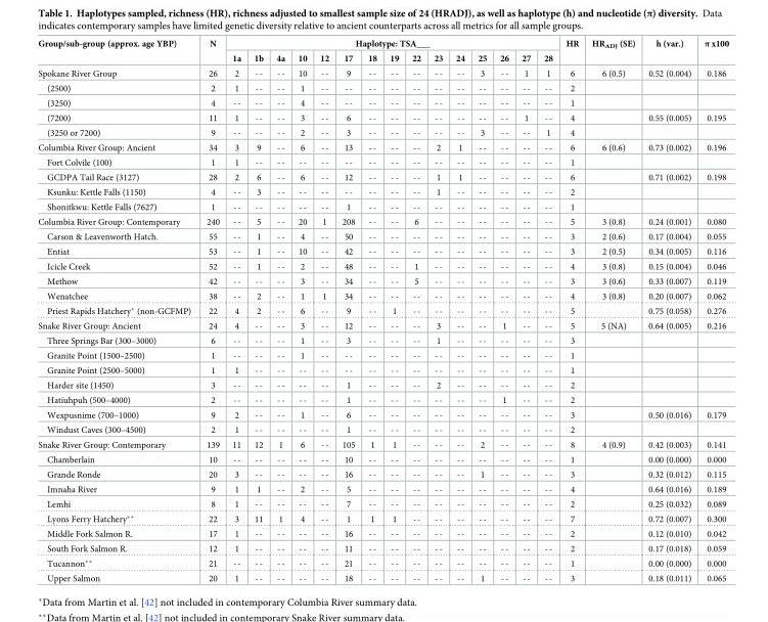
<table><thead><tr><td rowspan="2">Group/sub-group (approx. age YBP)</td><td rowspan="2">N</td><td colspan="15">Haplotype: TSA___</td><td rowspan="2">HR</td><td rowspan="2">HR<sub>ADJ</sub> (SE)</td><td rowspan="2">h (var.)</td><td rowspan="2">π x100</td></tr><tr><td>1a</td><td>1b</td><td>4a</td><td>10</td><td>12</td><td>17</td><td>18</td><td>19</td><td>22</td><td>23</td><td>24</td><td>25</td><td>26</td><td>27</td><td>28</td></tr></thead><tbody><tr><td>Spokane River Group</td><td>26</td><td>2</td><td>--</td><td>--</td><td>10</td><td>--</td><td>9</td><td>--</td><td>--</td><td>--</td><td>--</td><td>--</td><td>3</td><td>--</td><td>1</td><td>1</td><td>6</td><td>6 (0.5)</td><td>0.52 (0.004)</td><td>0.186</td></tr><tr><td>(2500)</td><td>2</td><td>1</td><td>--</td><td>--</td><td>1</td><td>--</td><td>--</td><td>--</td><td>--</td><td>--</td><td>--</td><td>--</td><td>--</td><td>--</td><td>--</td><td>--</td><td>2</td><td></td><td></td><td></td></tr><tr><td>(3250)</td><td>4</td><td>--</td><td>--</td><td>--</td><td>4</td><td>--</td><td>--</td><td>--</td><td>--</td><td>--</td><td>--</td><td>--</td><td>--</td><td>--</td><td>--</td><td>--</td><td>1</td><td></td><td></td><td></td></tr><tr><td>(7200)</td><td>11</td><td>1</td><td>--</td><td>--</td><td>3</td><td>--</td><td>6</td><td>--</td><td>--</td><td>--</td><td>--</td><td>--</td><td>--</td><td>--</td><td>1</td><td>--</td><td>4</td><td></td><td>0.55 (0.005)</td><td>0.195</td></tr><tr><td>(3250 or 7200)</td><td>9</td><td>--</td><td>--</td><td>--</td><td>2</td><td>--</td><td>3</td><td>--</td><td>--</td><td>--</td><td>--</td><td>--</td><td>3</td><td>--</td><td>--</td><td>1</td><td>4</td><td></td><td></td><td></td></tr><tr><td>Columbia River Group: Ancient</td><td>34</td><td>3</td><td>9</td><td>--</td><td>6</td><td>--</td><td>13</td><td>--</td><td>--</td><td>--</td><td>2</td><td>1</td><td>--</td><td>--</td><td>--</td><td>--</td><td>6</td><td>6 (0.6)</td><td>0.73 (0.002)</td><td>0.196</td></tr><tr><td>Fort Colvile (100)</td><td>1</td><td>1</td><td>--</td><td>--</td><td>--</td><td>--</td><td>--</td><td>--</td><td>--</td><td>--</td><td>--</td><td>--</td><td>--</td><td>--</td><td>--</td><td>--</td><td>1</td><td></td><td></td><td></td></tr><tr><td>GCDPA Tail Race (3127)</td><td>28</td><td>2</td><td>6</td><td>--</td><td>6</td><td>--</td><td>12</td><td>--</td><td>--</td><td>--</td><td>1</td><td>1</td><td>--</td><td>--</td><td>--</td><td>--</td><td>6</td><td></td><td>0.71 (0.002)</td><td>0.198</td></tr><tr><td>Ksunku: Kettle Falls (1150)</td><td>4</td><td>--</td><td>3</td><td>--</td><td>--</td><td>--</td><td>--</td><td>--</td><td>--</td><td>--</td><td>1</td><td>--</td><td>--</td><td>--</td><td>--</td><td>--</td><td>2</td><td></td><td></td><td></td></tr><tr><td>Shonitkwu: Kettle Falls (7627)</td><td>1</td><td>--</td><td>--</td><td>--</td><td>--</td><td>--</td><td>1</td><td>--</td><td>--</td><td>--</td><td>--</td><td>--</td><td>--</td><td>--</td><td>--</td><td>--</td><td>1</td><td></td><td></td><td></td></tr><tr><td>Columbia River Group: Contemporary</td><td>240</td><td>--</td><td>5</td><td>--</td><td>20</td><td>1</td><td>208</td><td>--</td><td>--</td><td>6</td><td>--</td><td>--</td><td>--</td><td>--</td><td>--</td><td>--</td><td>5</td><td>3 (0.8)</td><td>0.24 (0.001)</td><td>0.080</td></tr><tr><td>Carson &amp; Leavenworth Hatch.</td><td>55</td><td>--</td><td>1</td><td>--</td><td>4</td><td>--</td><td>50</td><td>--</td><td>--</td><td>--</td><td>--</td><td>--</td><td>--</td><td>--</td><td>--</td><td>--</td><td>3</td><td>2 (0.6)</td><td>0.17 (0.004)</td><td>0.055</td></tr><tr><td>Entiat</td><td>53</td><td>--</td><td>1</td><td>--</td><td>10</td><td>--</td><td>42</td><td>--</td><td>--</td><td>--</td><td>--</td><td>--</td><td>--</td><td>--</td><td>--</td><td>--</td><td>3</td><td>2 (0.5)</td><td>0.34 (0.005)</td><td>0.116</td></tr><tr><td>Icicle Creek</td><td>52</td><td>--</td><td>1</td><td>--</td><td>2</td><td>--</td><td>48</td><td>--</td><td>--</td><td>1</td><td>--</td><td>--</td><td>--</td><td>--</td><td>--</td><td>--</td><td>4</td><td>3 (0.8)</td><td>0.15 (0.004)</td><td>0.046</td></tr><tr><td>Methow</td><td>42</td><td>--</td><td>--</td><td>--</td><td>3</td><td>--</td><td>34</td><td>--</td><td>--</td><td>5</td><td>--</td><td>--</td><td>--</td><td>--</td><td>--</td><td>--</td><td>3</td><td>3 (0.6)</td><td>0.33 (0.007)</td><td>0.119</td></tr><tr><td>Wenatchee</td><td>38</td><td>--</td><td>2</td><td>--</td><td>1</td><td>1</td><td>34</td><td>--</td><td>--</td><td>--</td><td>--</td><td>--</td><td>--</td><td>--</td><td>--</td><td>--</td><td>4</td><td>3 (0.8)</td><td>0.20 (0.007)</td><td>0.062</td></tr><tr><td>Priest Rapids Hatchery* (non-GCFMP)</td><td>22</td><td>4</td><td>2</td><td>--</td><td>6</td><td>--</td><td>9</td><td>--</td><td>1</td><td>--</td><td>--</td><td>--</td><td>--</td><td>--</td><td>--</td><td>--</td><td>5</td><td></td><td>0.75 (0.058)</td><td>0.276</td></tr><tr><td>Snake River Group: Ancient</td><td>24</td><td>4</td><td>--</td><td>--</td><td>3</td><td>--</td><td>12</td><td>--</td><td>--</td><td>--</td><td>3</td><td>--</td><td>--</td><td>1</td><td>--</td><td>--</td><td>5</td><td>5 (NA)</td><td>0.64 (0.005)</td><td>0.216</td></tr><tr><td>Three Springs Bar (300–3000)</td><td>6</td><td>--</td><td>--</td><td>--</td><td>1</td><td>--</td><td>3</td><td>--</td><td>--</td><td>--</td><td>1</td><td>--</td><td>--</td><td>--</td><td>--</td><td>--</td><td>3</td><td></td><td></td><td></td></tr><tr><td>Granite Point (1500–2500)</td><td>1</td><td>--</td><td>--</td><td>--</td><td>1</td><td>--</td><td>--</td><td>--</td><td>--</td><td>--</td><td>--</td><td>--</td><td>--</td><td>--</td><td>--</td><td>--</td><td>1</td><td></td><td></td><td></td></tr><tr><td>Granite Point (2500–5000)</td><td>1</td><td>1</td><td>--</td><td>--</td><td>--</td><td>--</td><td>--</td><td>--</td><td>--</td><td>--</td><td>--</td><td>--</td><td>--</td><td>--</td><td>--</td><td>--</td><td>1</td><td></td><td></td><td></td></tr><tr><td>Harder site (1450)</td><td>3</td><td>--</td><td>--</td><td>--</td><td>--</td><td>--</td><td>1</td><td>--</td><td>--</td><td>--</td><td>2</td><td>--</td><td>--</td><td>--</td><td>--</td><td>--</td><td>2</td><td></td><td></td><td></td></tr><tr><td>Hatiuhpuh (500–4000)</td><td>2</td><td>--</td><td>--</td><td>--</td><td>--</td><td>--</td><td>1</td><td>--</td><td>--</td><td>--</td><td>--</td><td>--</td><td>--</td><td>1</td><td>--</td><td>--</td><td>2</td><td></td><td></td><td></td></tr><tr><td>Wexpusnime (700–1000)</td><td>9</td><td>2</td><td>--</td><td>--</td><td>1</td><td>--</td><td>6</td><td>--</td><td>--</td><td>--</td><td>--</td><td>--</td><td>--</td><td>--</td><td>--</td><td>--</td><td>3</td><td></td><td>0.50 (0.016)</td><td>0.179</td></tr><tr><td>Windust Caves (300–4500)</td><td>2</td><td>1</td><td>--</td><td>--</td><td>--</td><td>--</td><td>1</td><td>--</td><td>--</td><td>--</td><td>--</td><td>--</td><td>--</td><td>--</td><td>--</td><td>--</td><td>2</td><td></td><td></td><td></td></tr><tr><td>Snake River Group: Contemporary</td><td>139</td><td>11</td><td>12</td><td>1</td><td>6</td><td>--</td><td>105</td><td>1</td><td>1</td><td>--</td><td>--</td><td>--</td><td>2</td><td>--</td><td>--</td><td>--</td><td>8</td><td>4 (0.9)</td><td>0.42 (0.003)</td><td>0.141</td></tr><tr><td>Chamberlain</td><td>10</td><td>--</td><td>--</td><td>--</td><td>--</td><td>--</td><td>10</td><td>--</td><td>--</td><td>--</td><td>--</td><td>--</td><td>--</td><td>--</td><td>--</td><td>--</td><td>1</td><td></td><td>0.00 (0.000)</td><td>0.000</td></tr><tr><td>Grande Ronde</td><td>20</td><td>3</td><td>--</td><td>--</td><td>--</td><td>--</td><td>16</td><td>--</td><td>--</td><td>--</td><td>--</td><td>--</td><td>1</td><td>--</td><td>--</td><td>--</td><td>3</td><td></td><td>0.32 (0.012)</td><td>0.115</td></tr><tr><td>Imnaha River</td><td>9</td><td>1</td><td>1</td><td>--</td><td>2</td><td>--</td><td>5</td><td>--</td><td>--</td><td>--</td><td>--</td><td>--</td><td>--</td><td>--</td><td>--</td><td>--</td><td>4</td><td></td><td>0.64 (0.016)</td><td>0.189</td></tr><tr><td>Lemhi</td><td>8</td><td>1</td><td>--</td><td>--</td><td>--</td><td>--</td><td>7</td><td>--</td><td>--</td><td>--</td><td>--</td><td>--</td><td>--</td><td>--</td><td>--</td><td>--</td><td>2</td><td></td><td>0.25 (0.032)</td><td>0.089</td></tr><tr><td>Lyons Ferry Hatchery**</td><td>22</td><td>3</td><td>11</td><td>1</td><td>4</td><td>--</td><td>1</td><td>1</td><td>1</td><td>--</td><td>--</td><td>--</td><td>--</td><td>--</td><td>--</td><td>--</td><td>7</td><td></td><td>0.72 (0.007)</td><td>0.300</td></tr><tr><td>Middle Fork Salmon R.</td><td>17</td><td>1</td><td>--</td><td>--</td><td>--</td><td>--</td><td>16</td><td>--</td><td>--</td><td>--</td><td>--</td><td>--</td><td>--</td><td>--</td><td>--</td><td>--</td><td>2</td><td></td><td>0.12 (0.010)</td><td>0.042</td></tr><tr><td>South Fork Salmon R.</td><td>12</td><td>1</td><td>--</td><td>--</td><td>--</td><td>--</td><td>11</td><td>--</td><td>--</td><td>--</td><td>--</td><td>--</td><td>--</td><td>--</td><td>--</td><td>--</td><td>2</td><td></td><td>0.17 (0.018)</td><td>0.059</td></tr><tr><td>Tucannon**</td><td>21</td><td>--</td><td>--</td><td>--</td><td>--</td><td>--</td><td>21</td><td>--</td><td>--</td><td>--</td><td>--</td><td>--</td><td>--</td><td>--</td><td>--</td><td>--</td><td>1</td><td></td><td>0.00 (0.000)</td><td>0.000</td></tr><tr><td>Upper Salmon</td><td>20</td><td>1</td><td>--</td><td>--</td><td>--</td><td>--</td><td>18</td><td>--</td><td>--</td><td>--</td><td>--</td><td>--</td><td>1</td><td>--</td><td>--</td><td>--</td><td>3</td><td></td><td>0.18 (0.011)</td><td>0.065</td></tr></tbody></table>